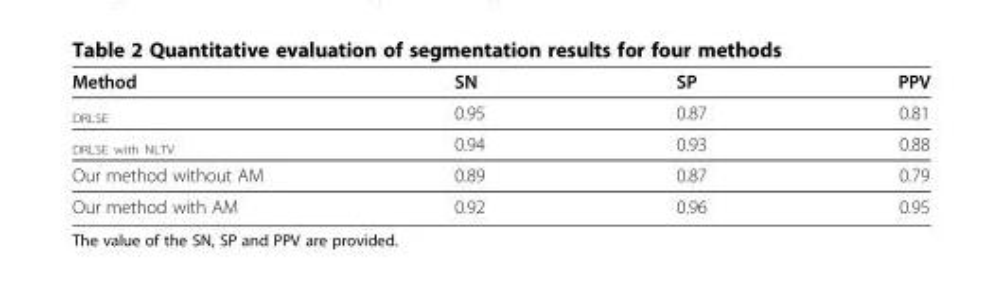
<table><thead><tr><td>Method</td><td>SN</td><td>SP</td><td>PPV</td></tr></thead><tbody><tr><td><sub>DRLSE</sub></td><td>0.95</td><td>0.87</td><td>0.81</td></tr><tr><td><sub>DRLSE with NLTV</sub></td><td>0.94</td><td>0.93</td><td>0.88</td></tr><tr><td>Our method without AM</td><td>0.89</td><td>0.87</td><td>0.79</td></tr><tr><td>Our method with AM</td><td>0.92</td><td>0.96</td><td>0.95</td></tr></tbody></table>